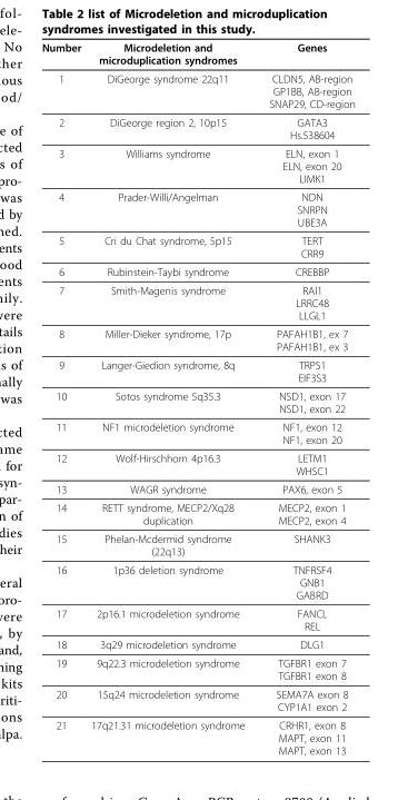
<table><thead><tr><td>Number</td><td>Microdeletion and microduplication syndromes</td><td>Genes</td></tr></thead><tbody><tr><td>1</td><td>DiGeorge syndrome 22q11</td><td>CLDN5, AB-region GP1BB, AB-region SNAP29, CD-region</td></tr><tr><td>2</td><td>DiGeorge region 2, 10p15</td><td>GATA3 Hs.538604</td></tr><tr><td>3</td><td>Williams syndrome</td><td>ELN, exon 1 ELN, exon 20 LIMK1</td></tr><tr><td>4</td><td>Prader-Willi/Angelman</td><td>NDN SNRPN UBE3A</td></tr><tr><td>5</td><td>Cri du Chat syndrome, 5p15</td><td>TERT CRR9</td></tr><tr><td>6</td><td>Rubinstein-Taybi syndrome</td><td>CREBBP</td></tr><tr><td>7</td><td>Smith-Magenis syndrome</td><td>RAI1 LRRC48 LLGL1</td></tr><tr><td>8</td><td>Miller-Dieker syndrome, 17p</td><td>PAFAH1B1, ex 7 PAFAH1B1, ex 3</td></tr><tr><td>9</td><td>Langer-Giedion syndrome, 8q</td><td>TRPS1 EIF3S3</td></tr><tr><td>10</td><td>Sotos syndrome 5q35.3</td><td>NSD1, exon 17 NSD1, exon 22</td></tr><tr><td>11</td><td>NF1 microdeletion syndrome</td><td>NF1, exon 12 NF1, exon 20</td></tr><tr><td>12</td><td>Wolf-Hirschhorn 4p16.3</td><td>LETM1 WHSC1</td></tr><tr><td>13</td><td>WAGR syndrome</td><td>PAX6, exon 5</td></tr><tr><td>14</td><td>RETT syndrome, MECP2/Xq28 duplication</td><td>MECP2, exon 1 MECP2, exon 4</td></tr><tr><td>15</td><td>Phelan-Mcdermid syndrome (22q13)</td><td>SHANK3</td></tr><tr><td>16</td><td>1p36 deletion syndrome</td><td>TNFRSF4 GNB1 GABRD</td></tr><tr><td>17</td><td>2p16.1 microdeletion syndrome</td><td>FANCL REL</td></tr><tr><td>18</td><td>3q29 microdeletion syndrome</td><td>DLG1</td></tr><tr><td>19</td><td>9q22.3 microdeletion syndrome</td><td>TGFBR1 exon 7 TGFBR1 exon 8</td></tr><tr><td>20</td><td>15q24 microdeletion syndrome</td><td>SEMA7A exon 8 CYP1A1 exon 2</td></tr><tr><td>21</td><td>17q21.31 microdeletion syndrome</td><td>CRHR1, exon 8 MAPT, exon 11 MAPT, exon 13</td></tr></tbody></table>